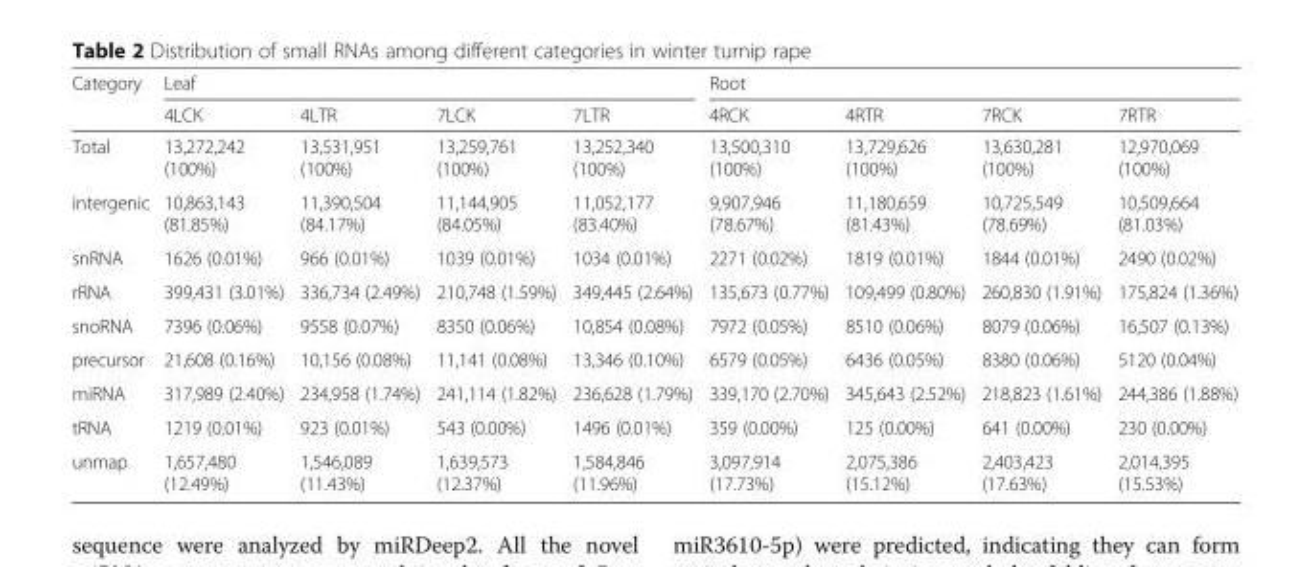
<table><thead><tr><td rowspan="2">Category</td><td colspan="4">Leaf</td><td colspan="4">Root</td></tr><tr><td>4LCK</td><td>4LTR</td><td>7LCK</td><td>7LTR</td><td>4RCK</td><td>4RTR</td><td>7RCK</td><td>7RTR</td></tr></thead><tbody><tr><td>Total</td><td>13,272,242 (100%)</td><td>13,531,951 (100%)</td><td>13,259,761 (100%)</td><td>13,252,340 (100%)</td><td>13,500,310 (100%)</td><td>13,729,626 (100%)</td><td>13,630,281 (100%)</td><td>12,970,069 (100%)</td></tr><tr><td>intergenic</td><td>10,863,143 (81.85%)</td><td>11,390,504 (84.17%)</td><td>11,144,905 (84.05%)</td><td>11,052,177 (83.40%)</td><td>9,907,946 (78.67%)</td><td>11,180,659 (81.43%)</td><td>10,725,549 (78.69%)</td><td>10,509,664 (81.03%)</td></tr><tr><td>snRNA</td><td>1626 (0.01%)</td><td>966 (0.01%)</td><td>1039 (0.01%)</td><td>1034 (0.01%)</td><td>2271 (0.02%)</td><td>1819 (0.01%)</td><td>1844 (0.01%)</td><td>2490 (0.02%)</td></tr><tr><td>rRNA</td><td>399,431 (3.01%)</td><td>336,734 (2.49%)</td><td>210,748 (1.59%)</td><td>349,445 (2.64%)</td><td>135,673 (0.77%)</td><td>109,499 (0.80%)</td><td>260,830 (1.91%)</td><td>175,824 (1.36%)</td></tr><tr><td>snoRNA</td><td>7396 (0.06%)</td><td>9558 (0.07%)</td><td>8350 (0.06%)</td><td>10,854 (0.08%)</td><td>7972 (0.05%)</td><td>8510 (0.06%)</td><td>8079 (0.06%)</td><td>16,507 (0.13%)</td></tr><tr><td>precursor</td><td>21,608 (0.16%)</td><td>10,156 (0.08%)</td><td>11,141 (0.08%)</td><td>13,346 (0.10%)</td><td>6579 (0.05%)</td><td>6436 (0.05%)</td><td>8380 (0.06%)</td><td>5120 (0.04%)</td></tr><tr><td>miRNA</td><td>317,989 (2.40%)</td><td>234,958 (1.74%)</td><td>241,114 (1.82%)</td><td>236,628 (1.79%)</td><td>339,170 (2.70%)</td><td>345,643 (2.52%)</td><td>218,823 (1.61%)</td><td>244,386 (1.88%)</td></tr><tr><td>tRNA</td><td>1219 (0.01%)</td><td>923 (0.01%)</td><td>543 (0.00%)</td><td>1496 (0.01%)</td><td>359 (0.00%)</td><td>125 (0.00%)</td><td>641 (0.00%)</td><td>230 (0.00%)</td></tr><tr><td>unmap</td><td>1,657,480 (12.49%)</td><td>1,546,089 (11.43%)</td><td>1,639,573 (12.37%)</td><td>1,584,846 (11.96%)</td><td>3,097,914 (17.73%)</td><td>2,075,386 (15.12%)</td><td>2,403,423 (17.63%)</td><td>2,014,395 (15.53%)</td></tr></tbody></table>